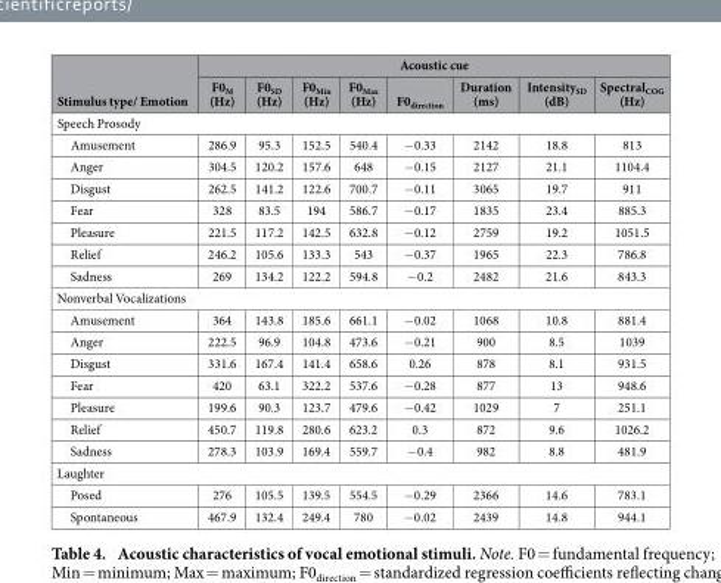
<table><thead><tr><td rowspan="2">Stimulus type/ Emotion</td><td colspan="8">Acoustic cue</td></tr><tr><td>F0<sub>M</sub> (Hz)</td><td>F0<sub>SD</sub> (Hz)</td><td>F0<sub>Min</sub> (Hz)</td><td>F0<sub>Max</sub> (Hz)</td><td>F0<sub>direction</sub></td><td>Duration (ms)</td><td>Intensity<sub>SD</sub> (dB)</td><td>Spectral<sub>COG</sub> (Hz)</td></tr></thead><tbody><tr><td colspan="9">Speech Prosody</td></tr><tr><td>Amusement</td><td>286.9</td><td>95.3</td><td>152.5</td><td>540.4</td><td>− 0.33</td><td>2142</td><td>18.8</td><td>813</td></tr><tr><td>Anger</td><td>304.5</td><td>120.2</td><td>157.6</td><td>648</td><td>− 0.15</td><td>2127</td><td>21.1</td><td>1104.4</td></tr><tr><td>Disgust</td><td>262.5</td><td>141.2</td><td>122.6</td><td>700.7</td><td>− 0.11</td><td>3065</td><td>19.7</td><td>911</td></tr><tr><td>Fear</td><td>328</td><td>83.5</td><td>194</td><td>586.7</td><td>− 0.17</td><td>1835</td><td>23.4</td><td>885.3</td></tr><tr><td>Pleasure</td><td>221.5</td><td>117.2</td><td>142.5</td><td>632.8</td><td>− 0.12</td><td>2759</td><td>19.2</td><td>1051.5</td></tr><tr><td>Relief</td><td>246.2</td><td>105.6</td><td>133.3</td><td>543</td><td>− 0.37</td><td>1965</td><td>22.3</td><td>786.8</td></tr><tr><td>Sadness</td><td>269</td><td>134.2</td><td>122.2</td><td>594.8</td><td>− 0.2</td><td>2482</td><td>21.6</td><td>843.3</td></tr><tr><td colspan="9">Nonverbal Vocalizations</td></tr><tr><td>Amusement</td><td>364</td><td>143.8</td><td>185.6</td><td>661.1</td><td>− 0.02</td><td>1068</td><td>10.8</td><td>881.4</td></tr><tr><td>Anger</td><td>222.5</td><td>96.9</td><td>104.8</td><td>473.6</td><td>− 0.21</td><td>900</td><td>8.5</td><td>1039</td></tr><tr><td>Disgust</td><td>331.6</td><td>167.4</td><td>141.4</td><td>658.6</td><td>0.26</td><td>878</td><td>8.1</td><td>931.5</td></tr><tr><td>Fear</td><td>420</td><td>63.1</td><td>322.2</td><td>537.6</td><td>− 0.28</td><td>877</td><td>13</td><td>948.6</td></tr><tr><td>Pleasure</td><td>199.6</td><td>90.3</td><td>123.7</td><td>479.6</td><td>− 0.42</td><td>1029</td><td>7</td><td>251.1</td></tr><tr><td>Relief</td><td>450.7</td><td>119.8</td><td>280.6</td><td>623.2</td><td>0.3</td><td>872</td><td>9.6</td><td>1026.2</td></tr><tr><td>Sadness</td><td>278.3</td><td>103.9</td><td>169.4</td><td>559.7</td><td>− 0.4</td><td>982</td><td>8.8</td><td>481.9</td></tr><tr><td colspan="9">Laughter</td></tr><tr><td>Posed</td><td>276</td><td>105.5</td><td>139.5</td><td>554.5</td><td>− 0.29</td><td>2366</td><td>14.6</td><td>783.1</td></tr><tr><td>Spontaneous</td><td>467.9</td><td>132.4</td><td>249.4</td><td>780</td><td>− 0.02</td><td>2439</td><td>14.8</td><td>944.1</td></tr></tbody></table>